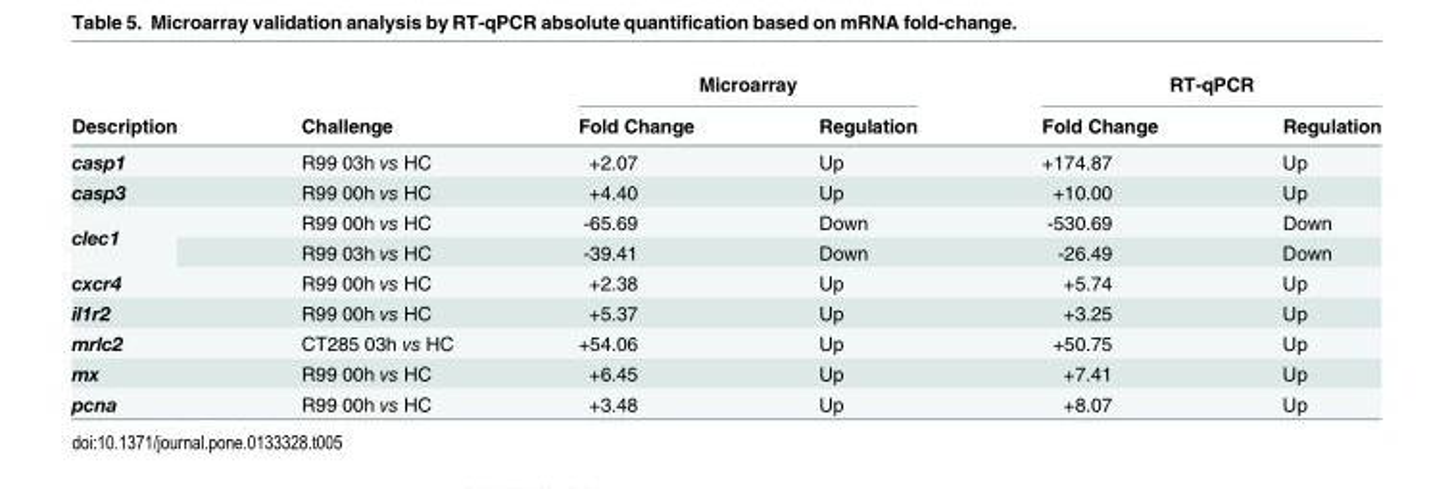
<table><thead><tr><td rowspan="2">Description</td><td rowspan="2">Challenge</td><td colspan="2">Microarray</td><td colspan="2">RT-qPCR</td></tr><tr><td>Fold Change</td><td>Regulation</td><td>Fold Change</td><td>Regulation</td></tr></thead><tbody><tr><td>casp1</td><td>R99 03h vs HC</td><td>+2.07</td><td>Up</td><td>+174.87</td><td>Up</td></tr><tr><td>casp3</td><td>R99 00h vs HC</td><td>+4.40</td><td>Up</td><td>+10.00</td><td>Up</td></tr><tr><td rowspan="2">clec1</td><td>R99 00h vs HC</td><td>-65.69</td><td>Down</td><td>-530.69</td><td>Down</td></tr><tr><td>R99 03h vs HC</td><td>-39.41</td><td>Down</td><td>-26.49</td><td>Down</td></tr><tr><td>cxcr4</td><td>R99 00h vs HC</td><td>+2.38</td><td>Up</td><td>+5.74</td><td>Up</td></tr><tr><td>il1r2</td><td>R99 00h vs HC</td><td>+5.37</td><td>Up</td><td>+3.25</td><td>Up</td></tr><tr><td>mrlc2</td><td>CT285 03h vs HC</td><td>+54.06</td><td>Up</td><td>+50.75</td><td>Up</td></tr><tr><td>mx</td><td>R99 00h vs HC</td><td>+6.45</td><td>Up</td><td>+7.41</td><td>Up</td></tr><tr><td>pcna</td><td>R99 00h vs HC</td><td>+3.48</td><td>Up</td><td>+8.07</td><td>Up</td></tr></tbody></table>